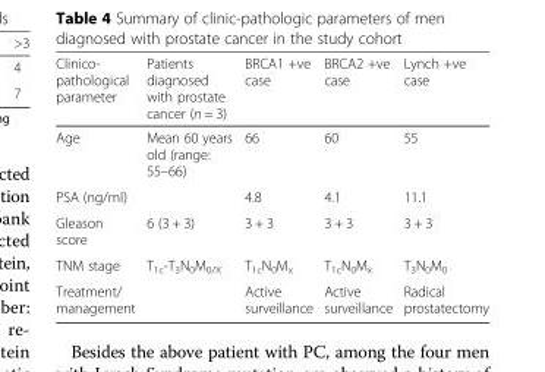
<table><thead><tr><td>Clinico- pathological parameter</td><td>Patients diagnosed with prostate cancer (n = 3)</td><td>BRCA1 +ve case</td><td>BRCA2 +ve case</td><td>Lynch +ve case</td></tr></thead><tbody><tr><td>Age</td><td>Mean 60 years old (range: 55–66)</td><td>66</td><td>60</td><td>55</td></tr><tr><td>PSA (ng/ml)</td><td></td><td>4.8</td><td>4.1</td><td>11.1</td></tr><tr><td>Gleason score</td><td>6 (3 + 3)</td><td>3 + 3</td><td>3 + 3</td><td>3 + 3</td></tr><tr><td>TNM stage</td><td>T<sub>1c</sub>-T<sub>3</sub>N<sub>0</sub>M<sub>0/X</sub></td><td>T<sub>1c</sub>N<sub>0</sub>M<sub>x</sub></td><td>T<sub>1c</sub>N<sub>0</sub>M<sub>x</sub></td><td>T<sub>3</sub>N<sub>0</sub>M<sub>0</sub></td></tr><tr><td>Treatment/ management</td><td></td><td>Active surveillance</td><td>Active surveillance</td><td>Radical prostatectomy</td></tr></tbody></table>